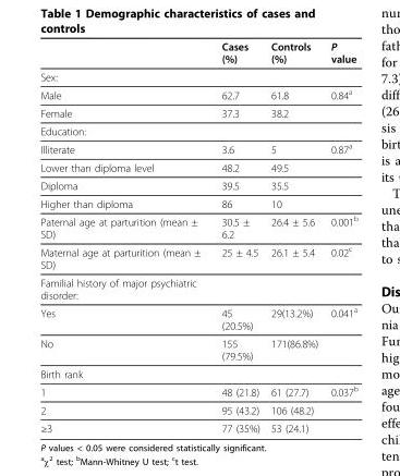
<table><thead><tr><td></td><td>Cases (%)</td><td>Controls (%)</td><td>P value</td></tr></thead><tbody><tr><td colspan="4">Sex:</td></tr><tr><td>Male</td><td>62.7</td><td>61.8</td><td>0.84<sup>a</sup></td></tr><tr><td>Female</td><td>37.3</td><td>38.2</td><td></td></tr><tr><td colspan="4">Education:</td></tr><tr><td>Illiterate</td><td>3.6</td><td>5</td><td>0.87<sup>a</sup></td></tr><tr><td>Lower than diploma level</td><td>48.2</td><td>49.5</td><td></td></tr><tr><td>Diploma</td><td>39.5</td><td>35.5</td><td></td></tr><tr><td>Higher than diploma</td><td>86</td><td>10</td><td></td></tr><tr><td>Paternal age at parturition (mean ± SD)</td><td>30.5 ± 6.2</td><td>26.4 ± 5.6</td><td>0.001<sup>b</sup></td></tr><tr><td>Maternal age at parturition (mean ± SD)</td><td>25 ± 4.5</td><td>26.1 ± 5.4</td><td>0.02<sup>c</sup></td></tr><tr><td colspan="4">Familial history of major psychiatric disorder:</td></tr><tr><td>Yes</td><td>45 (20.5%)</td><td>29(13.2%)</td><td>0.041<sup>a</sup></td></tr><tr><td>No</td><td>155 (79.5%)</td><td>171(86.8%)</td><td></td></tr><tr><td colspan="4">Birth rank</td></tr><tr><td>1</td><td>48 (21.8)</td><td>61 (27.7)</td><td>0.037<sup>b</sup></td></tr><tr><td>2</td><td>95 (43.2)</td><td>106 (48.2)</td><td></td></tr><tr><td>≥3</td><td>77 (35%)</td><td>53 (24.1)</td><td></td></tr></tbody></table>